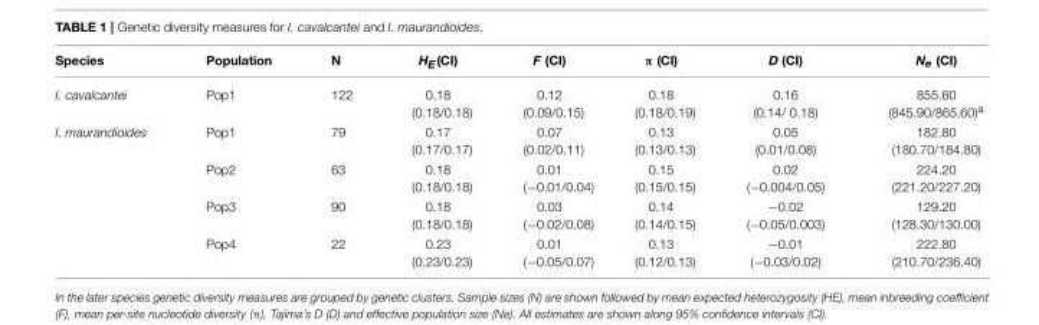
<table><thead><tr><td>Species</td><td>Population</td><td>N</td><td>HE(CI)</td><td>F (CI)</td><td>π (CI)</td><td>D (CI)</td><td>Ne (CI)</td></tr></thead><tbody><tr><td>I. cavalcantei</td><td>Pop1</td><td>122</td><td>0.18 (0.18/0.18)</td><td>0.12 (0.09/0.15)</td><td>0.18 (0.18/0.19)</td><td>0.16 (0.14/ 0.18)</td><td>855.60 (845.90/865.60)<sup>a</sup></td></tr><tr><td rowspan="4">I. maurandioides</td><td>Pop1</td><td>79</td><td>0.17 (0.17/0.17)</td><td>0.07 (0.02/0.11)</td><td>0.13 (0.13/0.13)</td><td>0.05 (0.01/0.08)</td><td>182.80 (180.70/184.80)</td></tr><tr><td>Pop2</td><td>63</td><td>0.18 (0.18/0.18)</td><td>0.01 (−0.01/0.04)</td><td>0.15 (0.15/0.15)</td><td>0.02 (−0.004/0.05)</td><td>224.20 (221.20/227.20)</td></tr><tr><td>Pop3</td><td>90</td><td>0.18 (0.18/0.18)</td><td>0.03 (−0.02/0.08)</td><td>0.14 (0.14/0.15)</td><td>−0.02 (−0.05/0.003)</td><td>129.20 (128.30/130.00)</td></tr><tr><td>Pop4</td><td>22</td><td>0.23 (0.23/0.23)</td><td>0.01 (−0.05/0.07)</td><td>0.13 (0.12/0.13)</td><td>−0.01 (−0.03/0.02)</td><td>222.80 (210.70/236.40)</td></tr></tbody></table>